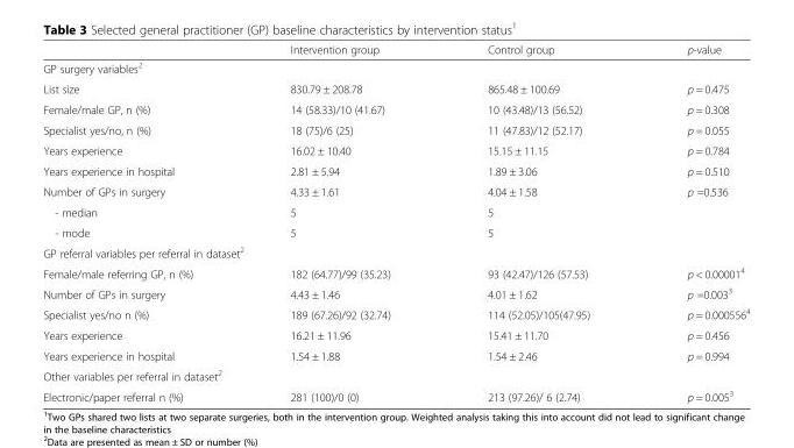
<table><thead><tr><td></td><td>Intervention group</td><td>Control group</td><td>p-value</td></tr></thead><tbody><tr><td colspan="4">GP surgery variables<sup>2</sup></td></tr><tr><td>List size</td><td>830.79 ± 208.78</td><td>865.48 ± 100.69</td><td>p = 0.475</td></tr><tr><td>Female/male GP, n (%)</td><td>14 (58.33)/10 (41.67)</td><td>10 (43.48)/13 (56.52)</td><td>p = 0.308</td></tr><tr><td>Specialist yes/no, n (%)</td><td>18 (75)/6 (25)</td><td>11 (47.83)/12 (52.17)</td><td>p = 0.055</td></tr><tr><td>Years experience</td><td>16.02 ± 10.40</td><td>15.15 ± 11.15</td><td>p = 0.784</td></tr><tr><td>Years experience in hospital</td><td>2.81 ± 5.94</td><td>1.89 ± 3.06</td><td>p = 0.510</td></tr><tr><td>Number of GPs in surgery</td><td>4.33 ± 1.61</td><td>4.04 ± 1.58</td><td>p =0.536</td></tr><tr><td>- median</td><td>5</td><td>5</td><td></td></tr><tr><td>- mode</td><td>5</td><td>5</td><td></td></tr><tr><td colspan="4">GP referral variables per referral in dataset<sup>2</sup></td></tr><tr><td>Female/male referring GP, n (%)</td><td>182 (64.77)/99 (35.23)</td><td>93 (42.47)/126 (57.53)</td><td>p &lt; 0.00001<sup>4</sup></td></tr><tr><td>Number of GPs in surgery</td><td>4.43 ± 1.46</td><td>4.01 ± 1.62</td><td>p =0.003<sup>3</sup></td></tr><tr><td>Specialist yes/no n (%)</td><td>189 (67.26)/92 (32.74)</td><td>114 (52.05)/105(47.95)</td><td>p = 0.000556<sup>4</sup></td></tr><tr><td>Years experience</td><td>16.21 ± 11.96</td><td>15.41 ± 11.70</td><td>p = 0.456</td></tr><tr><td>Years experience in hospital</td><td>1.54 ± 1.88</td><td>1.54 ± 2.46</td><td>p = 0.994</td></tr><tr><td colspan="4">Other variables per referral in dataset<sup>2</sup></td></tr><tr><td>Electronic/paper referral n (%)</td><td>281 (100)/0 (0)</td><td>213 (97.26)/ 6 (2.74)</td><td>p = 0.005<sup>3</sup></td></tr></tbody></table>